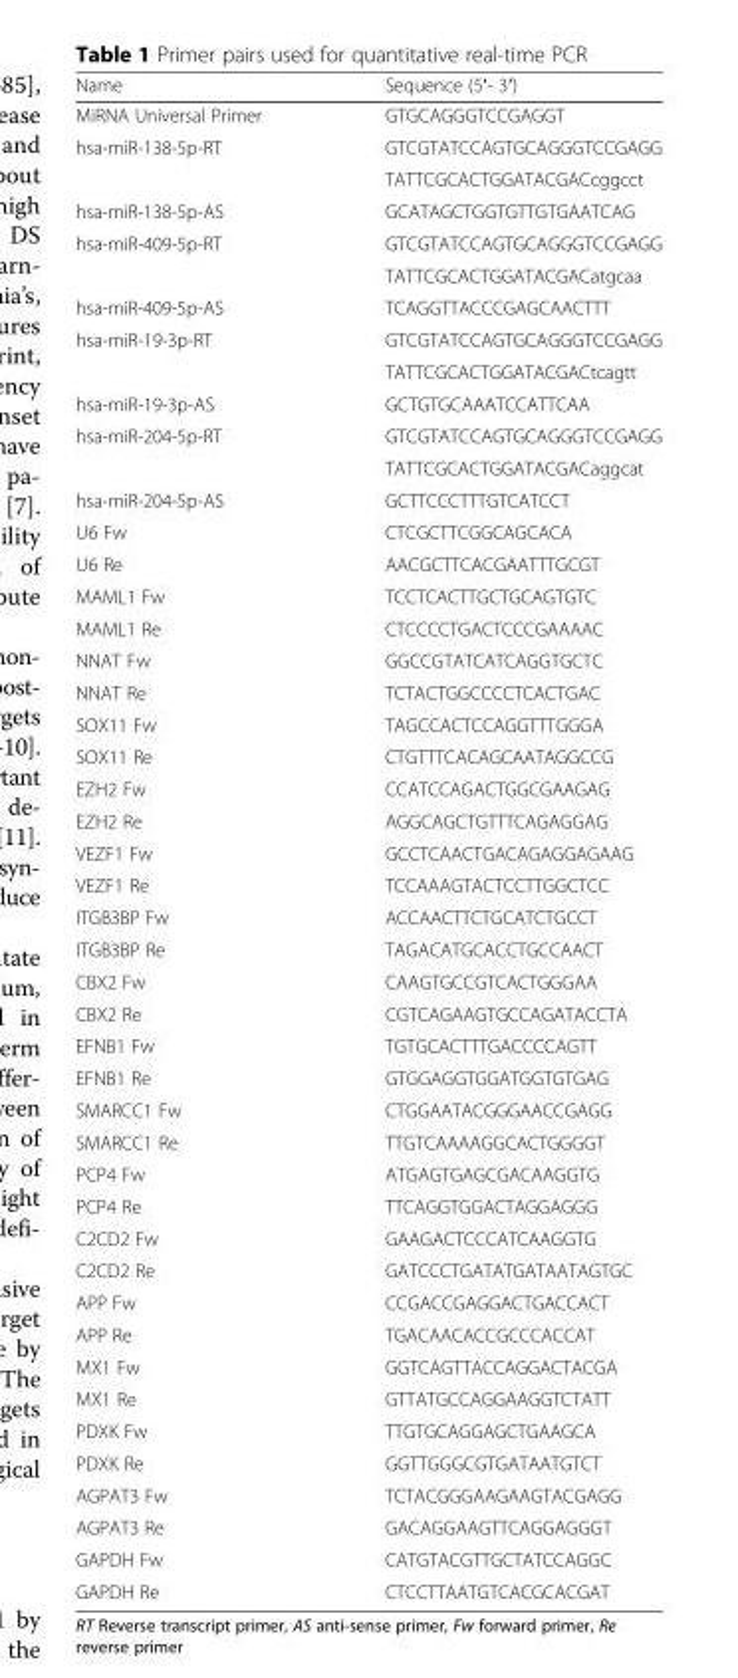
<table><thead><tr><td>Name</td><td>Sequence (5′- 3′)</td></tr></thead><tbody><tr><td>MiRNA Universal Primer</td><td>GTGCAGGGTCCGAGGT</td></tr><tr><td rowspan="2">hsa-miR-138-5p-RT</td><td>GTCGTATCCAGTGCAGGGTCCGAGG</td></tr><tr><td>TATTCGCACTGGATACGACcggcct</td></tr><tr><td>hsa-miR-138-5p-AS</td><td>GCATAGCTGGTGTTGTGAATCAG</td></tr><tr><td rowspan="2">hsa-miR-409-5p-RT</td><td>GTCGTATCCAGTGCAGGGTCCGAGG</td></tr><tr><td>TATTCGCACTGGATACGACatgcaa</td></tr><tr><td>hsa-miR-409-5p-AS</td><td>TCAGGTTACCCGAGCAACTTT</td></tr><tr><td rowspan="2">hsa-miR-19-3p-RT</td><td>GTCGTATCCAGTGCAGGGTCCGAGG</td></tr><tr><td>TATTCGCACTGGATACGACtcagtt</td></tr><tr><td>hsa-miR-19-3p-AS</td><td>GCTGTGCAAATCCATTCAA</td></tr><tr><td rowspan="2">hsa-miR-204-5p-RT</td><td>GTCGTATCCAGTGCAGGGTCCGAGG</td></tr><tr><td>TATTCGCACTGGATACGACaggcat</td></tr><tr><td>hsa-miR-204-5p-AS</td><td>GCTTCCCTTTGTCATCCT</td></tr><tr><td>U6 Fw</td><td>CTCGCTTCGGCAGCACA</td></tr><tr><td>U6 Re</td><td>AACGCTTCACGAATTTGCGT</td></tr><tr><td>MAML1 Fw</td><td>TCCTCACTTGCTGCAGTGTC</td></tr><tr><td>MAML1 Re</td><td>CTCCCCTGACTCCCGAAAAC</td></tr><tr><td>NNAT Fw</td><td>GGCCGTATCATCAGGTGCTC</td></tr><tr><td>NNAT Re</td><td>TCTACTGGCCCCTCACTGAC</td></tr><tr><td>SOX11 Fw</td><td>TAGCCACTCCAGGTTTGGGA</td></tr><tr><td>SOX11 Re</td><td>CTGTTTCACAGCAATAGGCCG</td></tr><tr><td>EZH2 Fw</td><td>CCATCCAGACTGGCGAAGAG</td></tr><tr><td>EZH2 Re</td><td>AGGCAGCTGTTTCAGAGGAG</td></tr><tr><td>VEZF1 Fw</td><td>GCCTCAACTGACAGAGGAGAAG</td></tr><tr><td>VEZF1 Re</td><td>TCCAAAGTACTCCTTGGCTCC</td></tr><tr><td>ITGB3BP Fw</td><td>ACCAACTTCTGCATCTGCCT</td></tr><tr><td>ITGB3BP Re</td><td>TAGACATGCACCTGCCAACT</td></tr><tr><td>CBX2 Fw</td><td>CAAGTGCCGTCACTGGGAA</td></tr><tr><td>CBX2 Re</td><td>CGTCAGAAGTGCCAGATACCTA</td></tr><tr><td>EFNB1 Fw</td><td>TGTGCACTTTGACCCCAGTT</td></tr><tr><td>EFNB1 Re</td><td>GTGGAGGTGGATGGTGTGAG</td></tr><tr><td>SMARCC1 Fw</td><td>CTGGAATACGGGAACCGAGG</td></tr><tr><td>SMARCC1 Re</td><td>TTGTCAAAAGGCACTGGGGT</td></tr><tr><td>PCP4 Fw</td><td>ATGAGTGAGCGACAAGGTG</td></tr><tr><td>PCP4 Re</td><td>TTCAGGTGGACTAGGAGGG</td></tr><tr><td>C2CD2 Fw</td><td>GAAGACTCCCATCAAGGTG</td></tr><tr><td>C2CD2 Re</td><td>GATCCCTGATATGATAATAGTGC</td></tr><tr><td>APP Fw</td><td>CCGACCGAGGACTGACCACT</td></tr><tr><td>APP Re</td><td>TGACAACACCGCCCACCAT</td></tr><tr><td>MX1 Fw</td><td>GGTCAGTTACCAGGACTACGA</td></tr><tr><td>MX1 Re</td><td>GTTATGCCAGGAAGGTCTATT</td></tr><tr><td>PDXK Fw</td><td>TTGTGCAGGAGCTGAAGCA</td></tr><tr><td>PDXK Re</td><td>GGTTGGGCGTGATAATGTCT</td></tr><tr><td>AGPAT3 Fw</td><td>TCTACGGGAAGAAGTACGAGG</td></tr><tr><td>AGPAT3 Re</td><td>GACAGGAAGTTCAGGAGGGT</td></tr><tr><td>GAPDH Fw</td><td>CATGTACGTTGCTATCCAGGC</td></tr><tr><td>GAPDH Re</td><td>CTCCTTAATGTCACGCACGAT</td></tr></tbody></table>